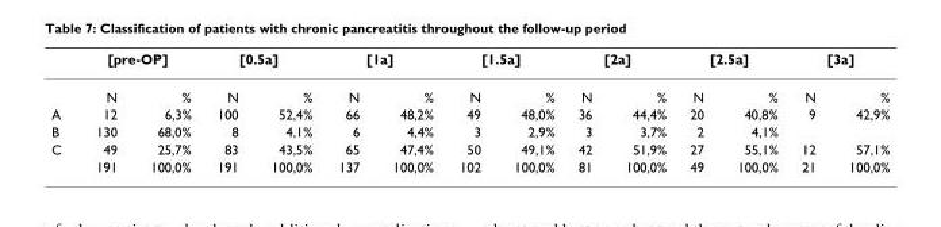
<table><thead><tr><td rowspan="2"></td><td colspan="2">[pre-OP]</td><td colspan="2">[0.5a]</td><td colspan="2">[1a]</td><td colspan="2">[1.5a]</td><td colspan="2">[2a]</td><td colspan="2">[2.5a]</td><td colspan="2">[3a]</td></tr><tr><td>N</td><td>%</td><td>N</td><td>%</td><td>N</td><td>%</td><td>N</td><td>%</td><td>N</td><td>%</td><td>N</td><td>%</td><td>N</td><td>%</td></tr></thead><tbody><tr><td>A</td><td>12</td><td>6,3%</td><td>100</td><td>52,4%</td><td>66</td><td>48,2%</td><td>49</td><td>48,0%</td><td>36</td><td>44,4%</td><td>20</td><td>40,8%</td><td>9</td><td>42,9%</td></tr><tr><td>B</td><td>130</td><td>68,0%</td><td>8</td><td>4,1%</td><td>6</td><td>4,4%</td><td>3</td><td>2,9%</td><td>3</td><td>3,7%</td><td>2</td><td>4,1%</td><td></td><td></td></tr><tr><td rowspan="2">C</td><td>49</td><td>25,7%</td><td>83</td><td>43,5%</td><td>65</td><td>47,4%</td><td>50</td><td>49,1%</td><td>42</td><td>51,9%</td><td>27</td><td>55,1%</td><td>12</td><td>57,1%</td></tr><tr><td>191</td><td>100,0%</td><td>191</td><td>100,0%</td><td>137</td><td>100,0%</td><td>102</td><td>100,0%</td><td>81</td><td>100,0%</td><td>49</td><td>100,0%</td><td>21</td><td>100,0%</td></tr></tbody></table>